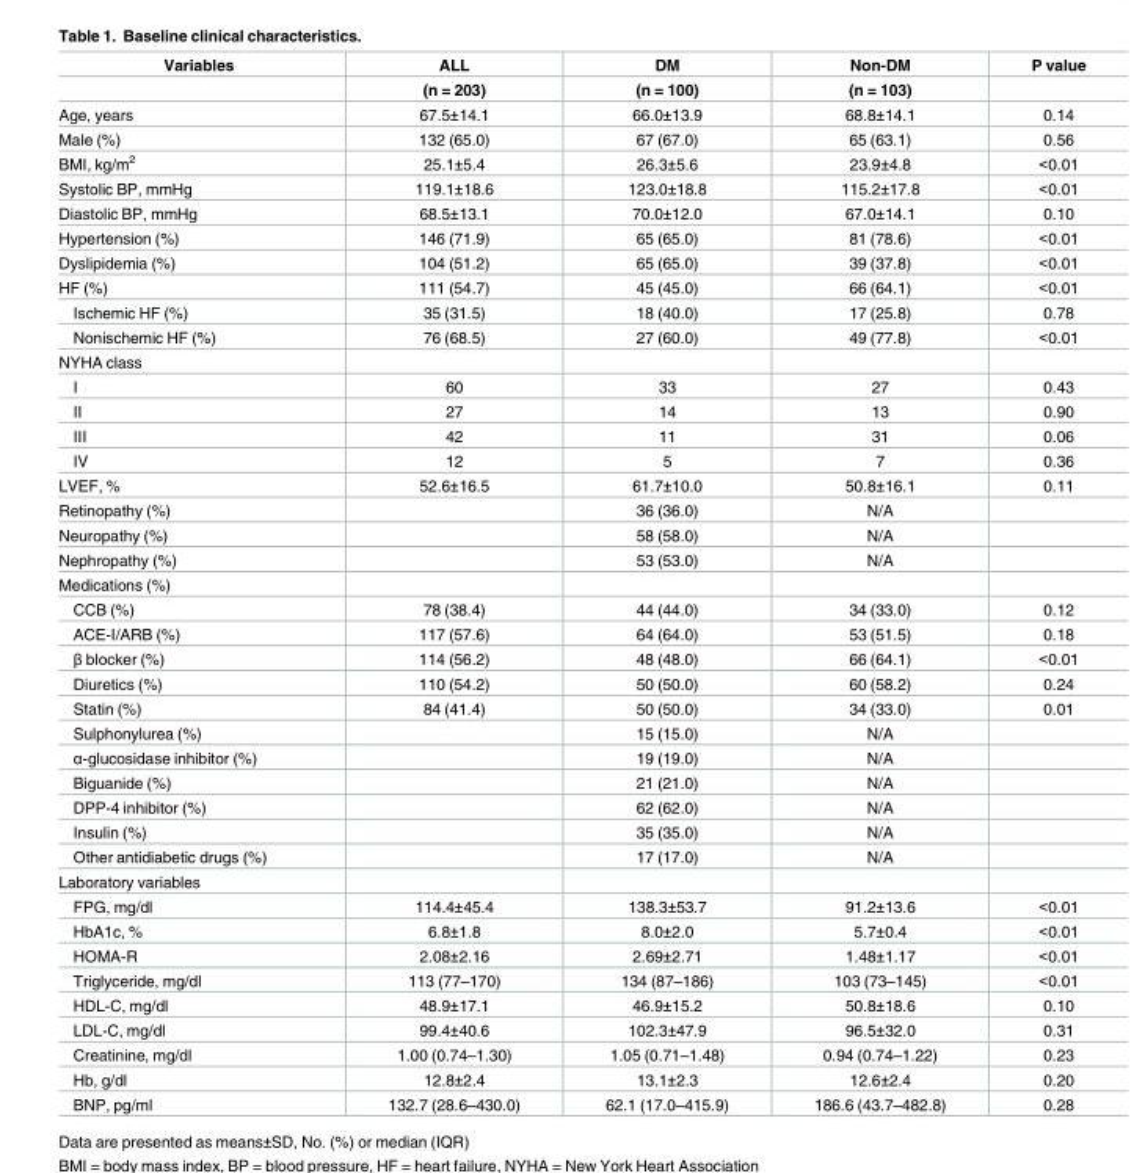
<table><thead><tr><td rowspan="2">Variables</td><td rowspan="2">ALL (n = 203)</td><td rowspan="2">DM (n = 100)</td><td rowspan="2">Non-DM (n = 103)</td><td rowspan="2">P value</td></tr><tr></tr></thead><tbody><tr><td>Age, years</td><td>67.5±14.1</td><td>66.0±13.9</td><td>68.8±14.1</td><td>0.14</td></tr><tr><td>Male (%)</td><td>132 (65.0)</td><td>67 (67.0)</td><td>65 (63.1)</td><td>0.56</td></tr><tr><td>BMI, kg/m<sup>2</sup></td><td>25.1±5.4</td><td>26.3±5.6</td><td>23.9±4.8</td><td>&lt;0.01</td></tr><tr><td>Systolic BP, mmHg</td><td>119.1±18.6</td><td>123.0±18.8</td><td>115.2±17.8</td><td>&lt;0.01</td></tr><tr><td>Diastolic BP, mmHg</td><td>68.5±13.1</td><td>70.0±12.0</td><td>67.0±14.1</td><td>0.10</td></tr><tr><td>Hypertension (%)</td><td>146 (71.9)</td><td>65 (65.0)</td><td>81 (78.6)</td><td>&lt;0.01</td></tr><tr><td>Dyslipidemia (%)</td><td>104 (51.2)</td><td>65 (65.0)</td><td>39 (37.8)</td><td>&lt;0.01</td></tr><tr><td>HF (%)</td><td>111 (54.7)</td><td>45 (45.0)</td><td>66 (64.1)</td><td>&lt;0.01</td></tr><tr><td>Ischemic HF (%)</td><td>35 (31.5)</td><td>18 (40.0)</td><td>17 (25.8)</td><td>0.78</td></tr><tr><td>Nonischemic HF (%)</td><td>76 (68.5)</td><td>27 (60.0)</td><td>49 (77.8)</td><td>&lt;0.01</td></tr><tr><td colspan="5">NYHA class</td></tr><tr><td>I</td><td>60</td><td>33</td><td>27</td><td>0.43</td></tr><tr><td>II</td><td>27</td><td>14</td><td>13</td><td>0.90</td></tr><tr><td>III</td><td>42</td><td>11</td><td>31</td><td>0.06</td></tr><tr><td>IV</td><td>12</td><td>5</td><td>7</td><td>0.36</td></tr><tr><td>LVEF, %</td><td>52.6±16.5</td><td>61.7±10.0</td><td>50.8±16.1</td><td>0.11</td></tr><tr><td>Retinopathy (%)</td><td></td><td>36 (36.0)</td><td>N/A</td><td></td></tr><tr><td>Neuropathy (%)</td><td></td><td>58 (58.0)</td><td>N/A</td><td></td></tr><tr><td>Nephropathy (%)</td><td></td><td>53 (53.0)</td><td>N/A</td><td></td></tr><tr><td colspan="5">Medications (%)</td></tr><tr><td>CCB (%)</td><td>78 (38.4)</td><td>44 (44.0)</td><td>34 (33.0)</td><td>0.12</td></tr><tr><td>ACE-I/ARB (%)</td><td>117 (57.6)</td><td>64 (64.0)</td><td>53 (51.5)</td><td>0.18</td></tr><tr><td>β blocker (%)</td><td>114 (56.2)</td><td>48 (48.0)</td><td>66 (64.1)</td><td>&lt;0.01</td></tr><tr><td>Diuretics (%)</td><td>110 (54.2)</td><td>50 (50.0)</td><td>60 (58.2)</td><td>0.24</td></tr><tr><td>Statin (%)</td><td>84 (41.4)</td><td>50 (50.0)</td><td>34 (33.0)</td><td>0.01</td></tr><tr><td>Sulphonylurea (%)</td><td></td><td>15 (15.0)</td><td>N/A</td><td></td></tr><tr><td>α-glucosidase inhibitor (%)</td><td></td><td>19 (19.0)</td><td>N/A</td><td></td></tr><tr><td>Biguanide (%)</td><td></td><td>21 (21.0)</td><td>N/A</td><td></td></tr><tr><td>DPP-4 inhibitor (%)</td><td></td><td>62 (62.0)</td><td>N/A</td><td></td></tr><tr><td>Insulin (%)</td><td></td><td>35 (35.0)</td><td>N/A</td><td></td></tr><tr><td>Other antidiabetic drugs (%)</td><td></td><td>17 (17.0)</td><td>N/A</td><td></td></tr><tr><td colspan="5">Laboratory variables</td></tr><tr><td>FPG, mg/dl</td><td>114.4±45.4</td><td>138.3±53.7</td><td>91.2±13.6</td><td>&lt;0.01</td></tr><tr><td>HbA1c, %</td><td>6.8±1.8</td><td>8.0±2.0</td><td>5.7±0.4</td><td>&lt;0.01</td></tr><tr><td>HOMA-R</td><td>2.08±2.16</td><td>2.69±2.71</td><td>1.48±1.17</td><td>&lt;0.01</td></tr><tr><td>Triglyceride, mg/dl</td><td>113 (77–170)</td><td>134 (87–186)</td><td>103 (73–145)</td><td>&lt;0.01</td></tr><tr><td>HDL-C, mg/dl</td><td>48.9±17.1</td><td>46.9±15.2</td><td>50.8±18.6</td><td>0.10</td></tr><tr><td>LDL-C, mg/dl</td><td>99.4±40.6</td><td>102.3±47.9</td><td>96.5±32.0</td><td>0.31</td></tr><tr><td>Creatinine, mg/dl</td><td>1.00 (0.74–1.30)</td><td>1.05 (0.71–1.48)</td><td>0.94 (0.74–1.22)</td><td>0.23</td></tr><tr><td>Hb, g/dl</td><td>12.8±2.4</td><td>13.1±2.3</td><td>12.6±2.4</td><td>0.20</td></tr><tr><td>BNP, pg/ml</td><td>132.7 (28.6–430.0)</td><td>62.1 (17.0–415.9)</td><td>186.6 (43.7–482.8)</td><td>0.28</td></tr></tbody></table>